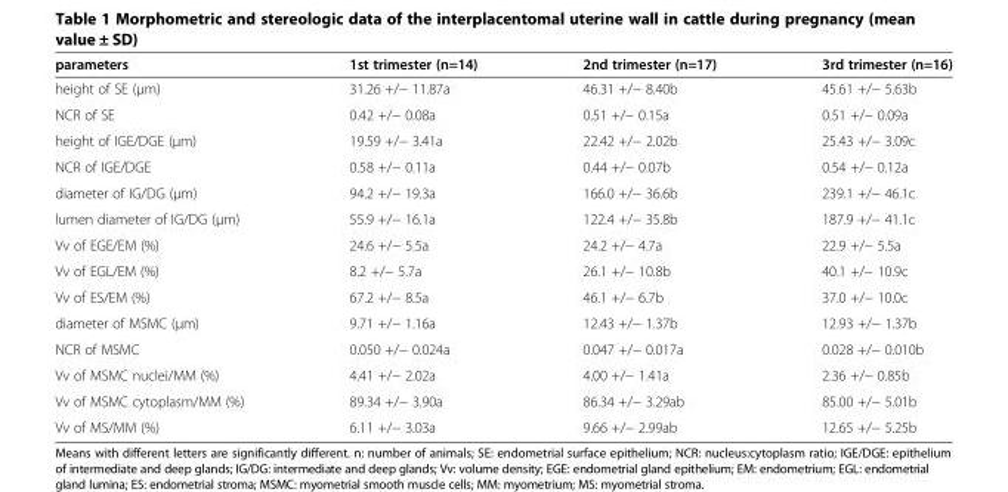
<table><thead><tr><td>parameters</td><td>1st trimester (n=14)</td><td>2nd trimester (n=17)</td><td>3rd trimester (n=16)</td></tr></thead><tbody><tr><td>height of SE (μm)</td><td>31.26 +/− 11.87a</td><td>46.31 +/− 8.40b</td><td>45.61 +/− 5.63b</td></tr><tr><td>NCR of SE</td><td>0.42 +/− 0.08a</td><td>0.51 +/− 0.15a</td><td>0.51 +/− 0.09a</td></tr><tr><td>height of IGE/DGE (μm)</td><td>19.59 +/− 3.41a</td><td>22.42 +/− 2.02b</td><td>25.43 +/− 3.09c</td></tr><tr><td>NCR of IGE/DGE</td><td>0.58 +/− 0.11a</td><td>0.44 +/− 0.07b</td><td>0.54 +/− 0.12a</td></tr><tr><td>diameter of IG/DG (μm)</td><td>94.2 +/− 19.3a</td><td>166.0 +/− 36.6b</td><td>239.1 +/− 46.1c</td></tr><tr><td>lumen diameter of IG/DG (μm)</td><td>55.9 +/− 16.1a</td><td>122.4 +/− 35.8b</td><td>187.9 +/− 41.1c</td></tr><tr><td>Vv of EGE/EM (%)</td><td>24.6 +/− 5.5a</td><td>24.2 +/− 4.7a</td><td>22.9 +/− 5.5a</td></tr><tr><td>Vv of EGL/EM (%)</td><td>8.2 +/− 5.7a</td><td>26.1 +/− 10.8b</td><td>40.1 +/− 10.9c</td></tr><tr><td>Vv of ES/EM (%)</td><td>67.2 +/− 8.5a</td><td>46.1 +/− 6.7b</td><td>37.0 +/− 10.0c</td></tr><tr><td>diameter of MSMC (μm)</td><td>9.71 +/− 1.16a</td><td>12.43 +/− 1.37b</td><td>12.93 +/− 1.37b</td></tr><tr><td>NCR of MSMC</td><td>0.050 +/− 0.024a</td><td>0.047 +/− 0.017a</td><td>0.028 +/− 0.010b</td></tr><tr><td>Vv of MSMC nuclei/MM (%)</td><td>4.41 +/− 2.02a</td><td>4.00 +/− 1.41a</td><td>2.36 +/− 0.85b</td></tr><tr><td>Vv of MSMC cytoplasm/MM (%)</td><td>89.34 +/− 3.90a</td><td>86.34 +/− 3.29ab</td><td>85.00 +/− 5.01b</td></tr><tr><td>Vv of MS/MM (%)</td><td>6.11 +/− 3.03a</td><td>9.66 +/− 2.99ab</td><td>12.65 +/− 5.25b</td></tr></tbody></table>